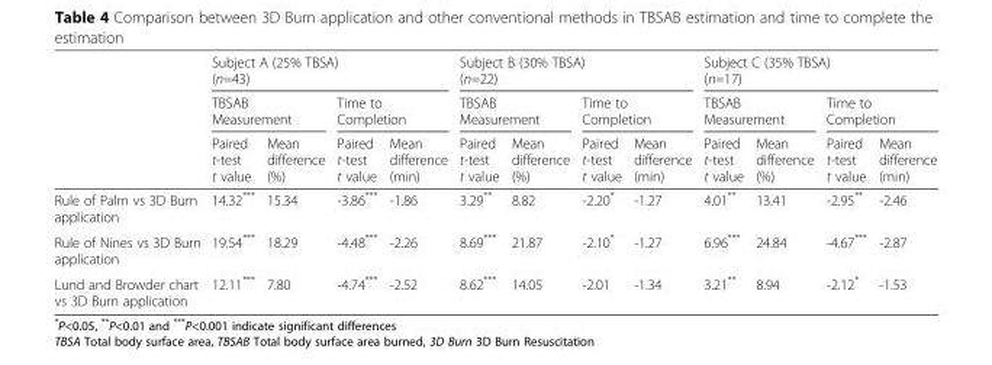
<table><thead><tr><td rowspan="3"></td><td colspan="4">Subject A (25% TBSA) (n=43)</td><td colspan="4">Subject B (30% TBSA) (n=22)</td><td colspan="4">Subject C (35% TBSA) (n=17)</td></tr><tr><td colspan="2">TBSAB Measurement</td><td colspan="2">Time to Completion</td><td colspan="2">TBSAB Measurement</td><td colspan="2">Time to Completion</td><td colspan="2">TBSAB Measurement</td><td colspan="2">Time to Completion</td></tr><tr><td>Paired t-test t value</td><td>Mean difference (%)</td><td>Paired t-test t value</td><td>Mean difference (min)</td><td>Paired t-test t value</td><td>Mean difference (%)</td><td>Paired t-test t value</td><td>Mean difference (min)</td><td>Paired t-test t value</td><td>Mean difference (%)</td><td>Paired t-test t value</td><td>Mean difference (min)</td></tr></thead><tbody><tr><td>Rule of Palm vs 3D Burn application</td><td>14.32***</td><td>15.34</td><td>-3.86***</td><td>-1.86</td><td>3.29**</td><td>8.82</td><td>-2.20*</td><td>-1.27</td><td>4.01**</td><td>13.41</td><td>-2.95**</td><td>-2.46</td></tr><tr><td>Rule of Nines vs 3D Burn application</td><td>19.54***</td><td>18.29</td><td>-4.48***</td><td>-2.26</td><td>8.69***</td><td>21.87</td><td>-2.10*</td><td>-1.27</td><td>6.96***</td><td>24.84</td><td>-4.67***</td><td>-2.87</td></tr><tr><td>Lund and Browder chart vs 3D Burn application</td><td>12.11***</td><td>7.80</td><td>-4.74***</td><td>-2.52</td><td>8.62***</td><td>14.05</td><td>-2.01</td><td>-1.34</td><td>3.21**</td><td>8.94</td><td>-2.12*</td><td>-1.53</td></tr></tbody></table>